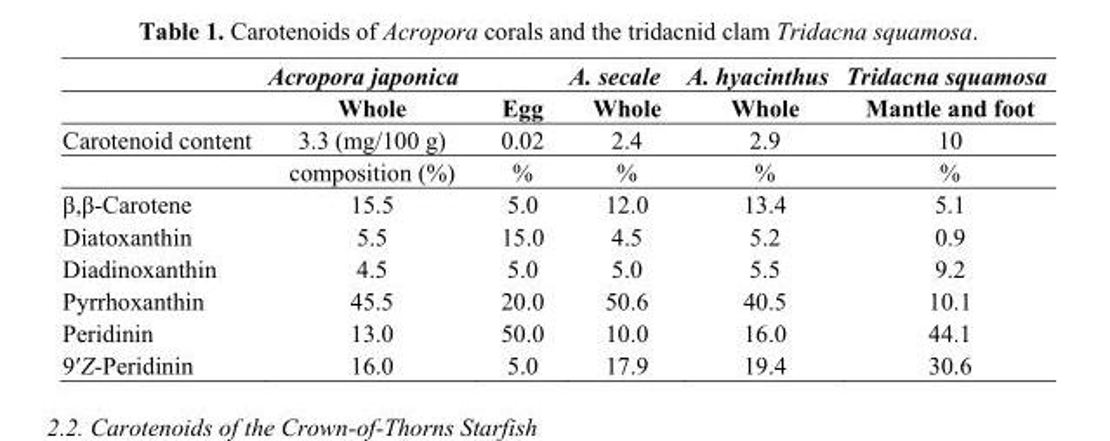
<table><thead><tr><td rowspan="4">Carotenoid content</td><td rowspan="4">Acropora japonica Whole 3.3 (mg/100 g) composition (%)</td><td rowspan="4">Egg 0.02 %</td><td rowspan="4">A. secale Whole 2.4 %</td><td rowspan="4">A. hyacinthus Whole 2.9 %</td><td rowspan="4">Tridacna squamosa Mantle and foot 10 %</td></tr><tr></tr><tr></tr><tr></tr></thead><tbody><tr><td>β,β-Carotene</td><td>15.5</td><td>5.0</td><td>12.0</td><td>13.4</td><td>5.1</td></tr><tr><td>Diatoxanthin</td><td>5.5</td><td>15.0</td><td>4.5</td><td>5.2</td><td>0.9</td></tr><tr><td>Diadinoxanthin</td><td>4.5</td><td>5.0</td><td>5.0</td><td>5.5</td><td>9.2</td></tr><tr><td>Pyrrhoxanthin</td><td>45.5</td><td>20.0</td><td>50.6</td><td>40.5</td><td>10.1</td></tr><tr><td>Peridinin</td><td>13.0</td><td>50.0</td><td>10.0</td><td>16.0</td><td>44.1</td></tr><tr><td>9′Z-Peridinin</td><td>16.0</td><td>5.0</td><td>17.9</td><td>19.4</td><td>30.6</td></tr></tbody></table>